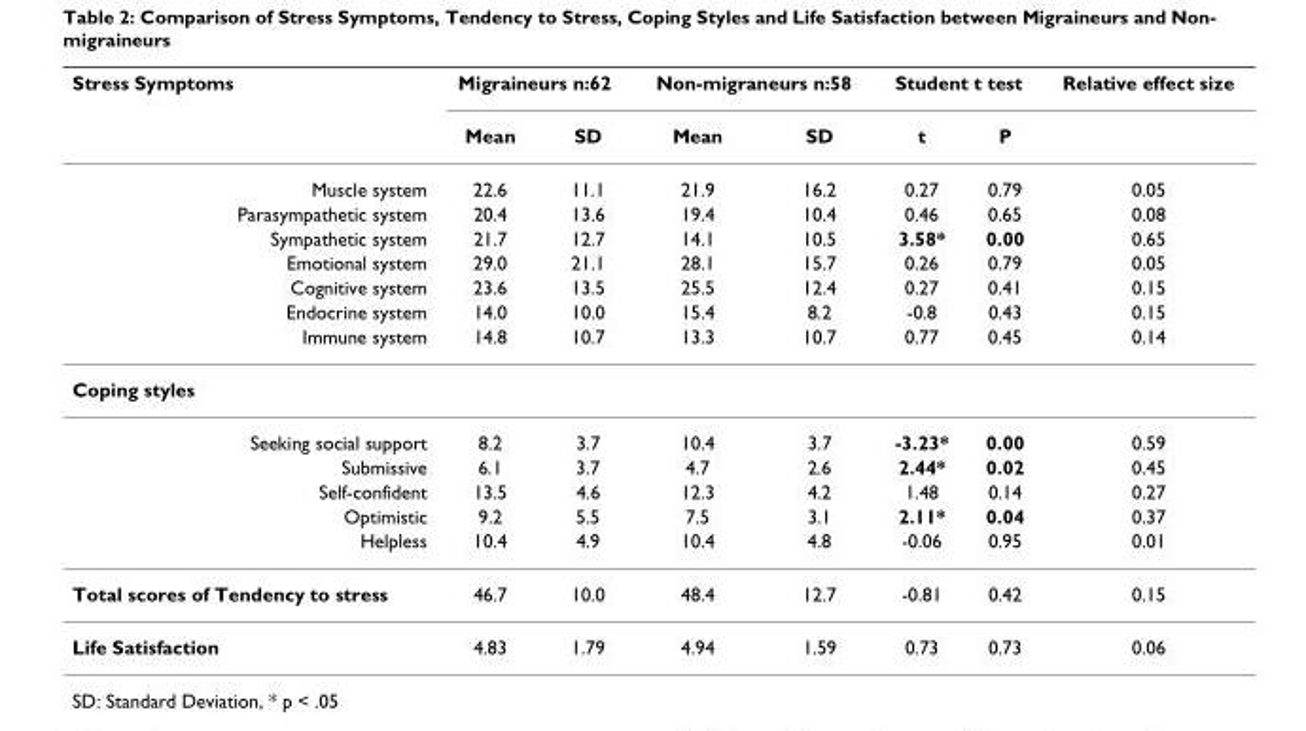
<table><thead><tr><td rowspan="2">Stress Symptoms</td><td colspan="2">Migraineurs n:62</td><td colspan="2">Non-migraneurs n:58</td><td colspan="2">Student t test</td><td rowspan="2">Relative effect size</td></tr><tr><td>Mean</td><td>SD</td><td>Mean</td><td>SD</td><td>t</td><td>P</td></tr></thead><tbody><tr><td>Muscle system</td><td>22.6</td><td>11.1</td><td>21.9</td><td>16.2</td><td>0.27</td><td>0.79</td><td>0.05</td></tr><tr><td>Parasympathetic system</td><td>20.4</td><td>13.6</td><td>19.4</td><td>10.4</td><td>0.46</td><td>0.65</td><td>0.08</td></tr><tr><td>Sympathetic system</td><td>21.7</td><td>12.7</td><td>14.1</td><td>10.5</td><td>3.58*</td><td>0.00</td><td>0.65</td></tr><tr><td>Emotional system</td><td>29.0</td><td>21.1</td><td>28.1</td><td>15.7</td><td>0.26</td><td>0.79</td><td>0.05</td></tr><tr><td>Cognitive system</td><td>23.6</td><td>13.5</td><td>25.5</td><td>12.4</td><td>0.27</td><td>0.41</td><td>0.15</td></tr><tr><td>Endocrine system</td><td>14.0</td><td>10.0</td><td>15.4</td><td>8.2</td><td>-0.8</td><td>0.43</td><td>0.15</td></tr><tr><td>Immune system</td><td>14.8</td><td>10.7</td><td>13.3</td><td>10.7</td><td>0.77</td><td>0.45</td><td>0.14</td></tr><tr><td colspan="8">Coping styles</td></tr><tr><td>Seeking social support</td><td>8.2</td><td>3.7</td><td>10.4</td><td>3.7</td><td>-3.23*</td><td>0.00</td><td>0.59</td></tr><tr><td>Submissive</td><td>6.1</td><td>3.7</td><td>4.7</td><td>2.6</td><td>2.44*</td><td>0.02</td><td>0.45</td></tr><tr><td>Self-confident</td><td>13.5</td><td>4.6</td><td>12.3</td><td>4.2</td><td>1.48</td><td>0.14</td><td>0.27</td></tr><tr><td>Optimistic</td><td>9.2</td><td>5.5</td><td>7.5</td><td>3.1</td><td>2.11*</td><td>0.04</td><td>0.37</td></tr><tr><td>Helpless</td><td>10.4</td><td>4.9</td><td>10.4</td><td>4.8</td><td>-0.06</td><td>0.95</td><td>0.01</td></tr><tr><td>Total scores of Tendency to stress</td><td>46.7</td><td>10.0</td><td>48.4</td><td>12.7</td><td>-0.81</td><td>0.42</td><td>0.15</td></tr><tr><td>Life Satisfaction</td><td>4.83</td><td>1.79</td><td>4.94</td><td>1.59</td><td>0.73</td><td>0.73</td><td>0.06</td></tr></tbody></table>